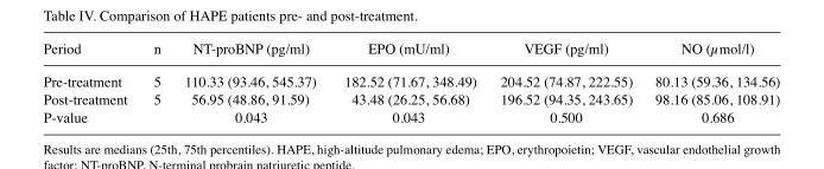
<table><thead><tr><td>Period</td><td>n</td><td>NT-proBNP (pg/ml)</td><td>EPO (mU/ml)</td><td>VEGF (pg/ml)</td><td>NO (µmol/l)</td></tr></thead><tbody><tr><td>Pre-treatment</td><td>5</td><td>110.33 (93.46, 545.37)</td><td>182.52 (71.67, 348.49)</td><td>204.52 (74.87, 222.55)</td><td>80.13 (59.36, 134.56)</td></tr><tr><td>Post-treatment</td><td>5</td><td>56.95 (48.86, 91.59)</td><td>43.48 (26.25, 56.68)</td><td>196.52 (94.35, 243.65)</td><td>98.16 (85.06, 108.91)</td></tr><tr><td>P-value</td><td></td><td>0.043</td><td>0.043</td><td>0.500</td><td>0.686</td></tr></tbody></table>